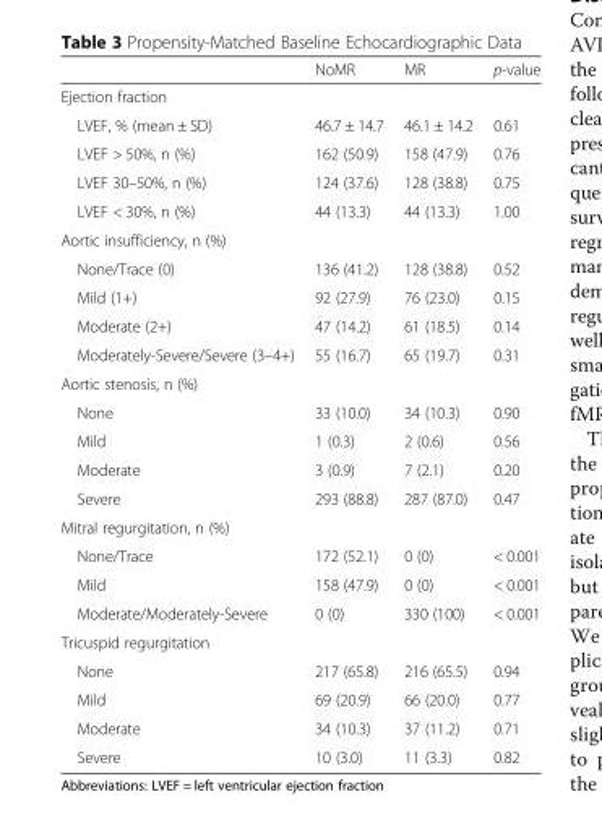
<table><thead><tr><td></td><td>NoMR</td><td>MR</td><td>p-value</td></tr></thead><tbody><tr><td colspan="4">Ejection fraction</td></tr><tr><td>LVEF, % (mean ± SD)</td><td>46.7 ± 14.7</td><td>46.1 ± 14.2</td><td>0.61</td></tr><tr><td>LVEF &gt; 50%, n (%)</td><td>162 (50.9)</td><td>158 (47.9)</td><td>0.76</td></tr><tr><td>LVEF 30–50%, n (%)</td><td>124 (37.6)</td><td>128 (38.8)</td><td>0.75</td></tr><tr><td>LVEF &lt; 30%, n (%)</td><td>44 (13.3)</td><td>44 (13.3)</td><td>1.00</td></tr><tr><td colspan="4">Aortic insufficiency, n (%)</td></tr><tr><td>None/Trace (0)</td><td>136 (41.2)</td><td>128 (38.8)</td><td>0.52</td></tr><tr><td>Mild (1+)</td><td>92 (27.9)</td><td>76 (23.0)</td><td>0.15</td></tr><tr><td>Moderate (2+)</td><td>47 (14.2)</td><td>61 (18.5)</td><td>0.14</td></tr><tr><td>Moderately-Severe/Severe (3–4+)</td><td>55 (16.7)</td><td>65 (19.7)</td><td>0.31</td></tr><tr><td colspan="4">Aortic stenosis, n (%)</td></tr><tr><td>None</td><td>33 (10.0)</td><td>34 (10.3)</td><td>0.90</td></tr><tr><td>Mild</td><td>1 (0.3)</td><td>2 (0.6)</td><td>0.56</td></tr><tr><td>Moderate</td><td>3 (0.9)</td><td>7 (2.1)</td><td>0.20</td></tr><tr><td>Severe</td><td>293 (88.8)</td><td>287 (87.0)</td><td>0.47</td></tr><tr><td colspan="4">Mitral regurgitation, n (%)</td></tr><tr><td>None/Trace</td><td>172 (52.1)</td><td>0 (0)</td><td>&lt; 0.001</td></tr><tr><td>Mild</td><td>158 (47.9)</td><td>0 (0)</td><td>&lt; 0.001</td></tr><tr><td>Moderate/Moderately-Severe</td><td>0 (0)</td><td>330 (100)</td><td>&lt; 0.001</td></tr><tr><td colspan="4">Tricuspid regurgitation</td></tr><tr><td>None</td><td>217 (65.8)</td><td>216 (65.5)</td><td>0.94</td></tr><tr><td>Mild</td><td>69 (20.9)</td><td>66 (20.0)</td><td>0.77</td></tr><tr><td>Moderate</td><td>34 (10.3)</td><td>37 (11.2)</td><td>0.71</td></tr><tr><td>Severe</td><td>10 (3.0)</td><td>11 (3.3)</td><td>0.82</td></tr></tbody></table>